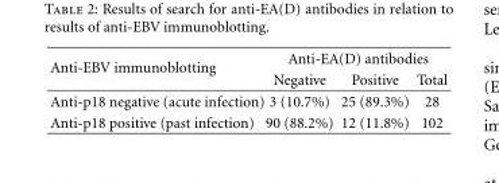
<table><thead><tr><td rowspan="2">Anti-EBV immunoblotting</td><td colspan="3">Anti-EA(D) antibodies</td></tr><tr><td>Negative</td><td>Positive</td><td>Total</td></tr></thead><tbody><tr><td>Anti-p18 negative (acute infection)</td><td>3 (10.7%)</td><td>25 (89.3%)</td><td>28</td></tr><tr><td>Anti-p18 positive (past infection)</td><td>90 (88.2%)</td><td>12 (11.8%)</td><td>102</td></tr></tbody></table>